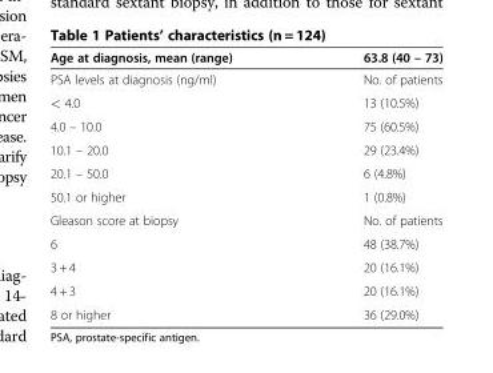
<table><thead><tr><td>Age at diagnosis, mean (range)</td><td>63.8 (40 – 73)</td></tr></thead><tbody><tr><td>PSA levels at diagnosis (ng/ml)</td><td>No. of patients</td></tr><tr><td>&lt; 4.0</td><td>13 (10.5%)</td></tr><tr><td>4.0 – 10.0</td><td>75 (60.5%)</td></tr><tr><td>10.1 – 20.0</td><td>29 (23.4%)</td></tr><tr><td>20.1 – 50.0</td><td>6 (4.8%)</td></tr><tr><td>50.1 or higher</td><td>1 (0.8%)</td></tr><tr><td>Gleason score at biopsy</td><td>No. of patients</td></tr><tr><td>6</td><td>48 (38.7%)</td></tr><tr><td>3 + 4</td><td>20 (16.1%)</td></tr><tr><td>4 + 3</td><td>20 (16.1%)</td></tr><tr><td>8 or higher</td><td>36 (29.0%)</td></tr></tbody></table>